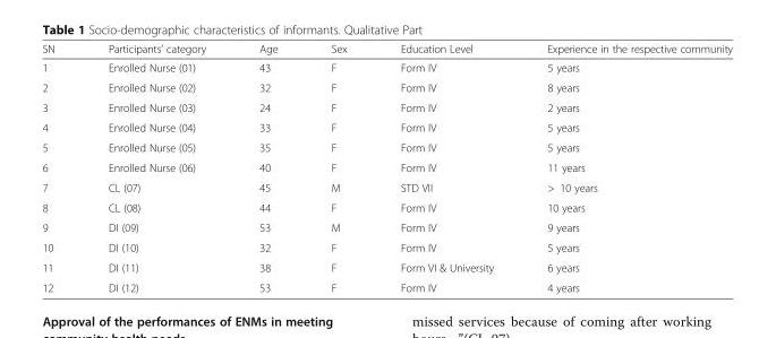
<table><thead><tr><td>SN</td><td>Participants’ category</td><td>Age</td><td>Sex</td><td>Education Level</td><td>Experience in the respective community</td></tr></thead><tbody><tr><td>1</td><td>Enrolled Nurse (01)</td><td>43</td><td>F</td><td>Form IV</td><td>5 years</td></tr><tr><td>2</td><td>Enrolled Nurse (02)</td><td>32</td><td>F</td><td>Form IV</td><td>8 years</td></tr><tr><td>3</td><td>Enrolled Nurse (03)</td><td>24</td><td>F</td><td>Form IV</td><td>2 years</td></tr><tr><td>4</td><td>Enrolled Nurse (04)</td><td>33</td><td>F</td><td>Form IV</td><td>5 years</td></tr><tr><td>5</td><td>Enrolled Nurse (05)</td><td>35</td><td>F</td><td>Form IV</td><td>5 years</td></tr><tr><td>6</td><td>Enrolled Nurse (06)</td><td>40</td><td>F</td><td>Form IV</td><td>11 years</td></tr><tr><td>7</td><td>CL (07)</td><td>45</td><td>M</td><td>STD VII</td><td>&gt; 10 years</td></tr><tr><td>8</td><td>CL (08)</td><td>44</td><td>F</td><td>Form IV</td><td>10 years</td></tr><tr><td>9</td><td>DI (09)</td><td>53</td><td>M</td><td>Form IV</td><td>9 years</td></tr><tr><td>10</td><td>DI (10)</td><td>32</td><td>F</td><td>Form IV</td><td>5 years</td></tr><tr><td>11</td><td>DI (11)</td><td>38</td><td>F</td><td>Form VI &amp; University</td><td>6 years</td></tr><tr><td>12</td><td>DI (12)</td><td>53</td><td>F</td><td>Form IV</td><td>4 years</td></tr></tbody></table>